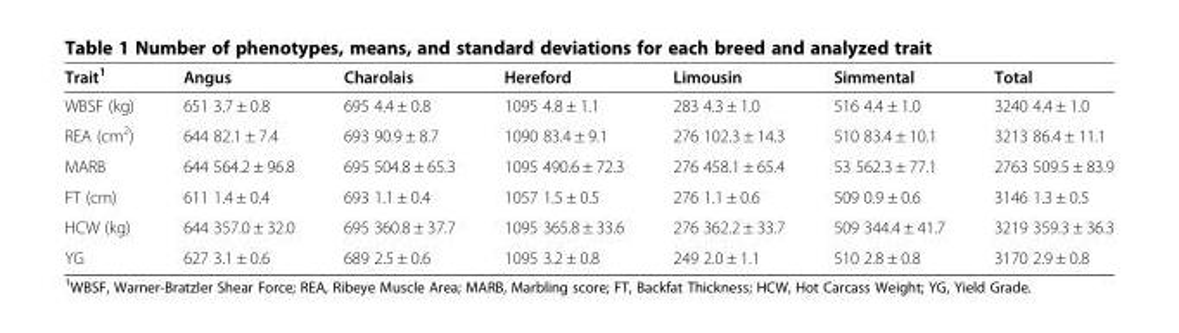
<table><thead><tr><td>Trait<sup>1</sup></td><td>Angus</td><td>Charolais</td><td>Hereford</td><td>Limousin</td><td>Simmental</td><td>Total</td></tr></thead><tbody><tr><td>WBSF (kg)</td><td>651 3.7 ± 0.8</td><td>695 4.4 ± 0.8</td><td>1095 4.8 ± 1.1</td><td>283 4.3 ± 1.0</td><td>516 4.4 ± 1.0</td><td>3240 4.4 ± 1.0</td></tr><tr><td>REA (cm<sup>2</sup>)</td><td>644 82.1 ± 7.4</td><td>693 90.9 ± 8.7</td><td>1090 83.4 ± 9.1</td><td>276 102.3 ± 14.3</td><td>510 83.4 ± 10.1</td><td>3213 86.4 ± 11.1</td></tr><tr><td>MARB</td><td>644 564.2 ± 96.8</td><td>695 504.8 ± 65.3</td><td>1095 490.6 ± 72.3</td><td>276 458.1 ± 65.4</td><td>53 562.3 ± 77.1</td><td>2763 509.5 ± 83.9</td></tr><tr><td>FT (cm)</td><td>611 1.4 ± 0.4</td><td>693 1.1 ± 0.4</td><td>1057 1.5 ± 0.5</td><td>276 1.1 ± 0.6</td><td>509 0.9 ± 0.6</td><td>3146 1.3 ± 0.5</td></tr><tr><td>HCW (kg)</td><td>644 357.0 ± 32.0</td><td>695 360.8 ± 37.7</td><td>1095 365.8 ± 33.6</td><td>276 362.2 ± 33.7</td><td>509 344.4 ± 41.7</td><td>3219 359.3 ± 36.3</td></tr><tr><td>YG</td><td>627 3.1 ± 0.6</td><td>689 2.5 ± 0.6</td><td>1095 3.2 ± 0.8</td><td>249 2.0 ± 1.1</td><td>510 2.8 ± 0.8</td><td>3170 2.9 ± 0.8</td></tr></tbody></table>